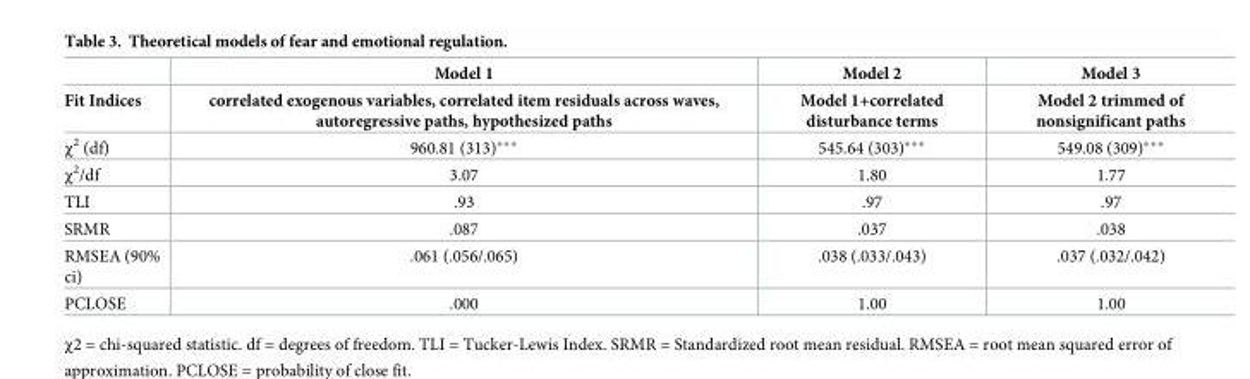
<table><thead><tr><td rowspan="2">Fit Indices</td><td rowspan="2">Model 1 correlated exogenous variables, correlated item residuals across waves, autoregressive paths, hypothesized paths</td><td rowspan="2">Model 2 Model 1+correlated disturbance terms</td><td rowspan="2">Model 3 Model 2 trimmed of nonsignificant paths</td></tr><tr></tr></thead><tbody><tr><td>χ<sup>2</sup> (df)</td><td>960.81 (313)***</td><td>545.64 (303)***</td><td>549.08 (309)***</td></tr><tr><td>χ<sup>2</sup>/df</td><td>3.07</td><td>1.80</td><td>1.77</td></tr><tr><td>TLI</td><td>.93</td><td>.97</td><td>.97</td></tr><tr><td>SRMR</td><td>.087</td><td>.037</td><td>.038</td></tr><tr><td>RMSEA (90% ci)</td><td>.061 (.056/.065)</td><td>.038 (.033/.043)</td><td>.037 (.032/.042)</td></tr><tr><td>PCLOSE</td><td>.000</td><td>1.00</td><td>1.00</td></tr></tbody></table>